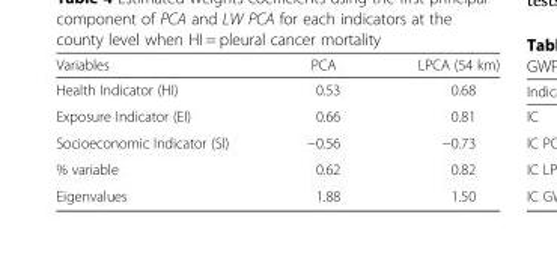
<table><thead><tr><td>Variables</td><td>PCA</td><td>LPCA (54 km)</td></tr></thead><tbody><tr><td>Health Indicator (HI)</td><td>0.53</td><td>0.68</td></tr><tr><td>Exposure Indicator (EI)</td><td>0.66</td><td>0.81</td></tr><tr><td>Socioeconomic Indicator (SI)</td><td>−0.56</td><td>−0.73</td></tr><tr><td>% variable</td><td>0.62</td><td>0.82</td></tr><tr><td>Eigenvalues</td><td>1.88</td><td>1.50</td></tr></tbody></table>